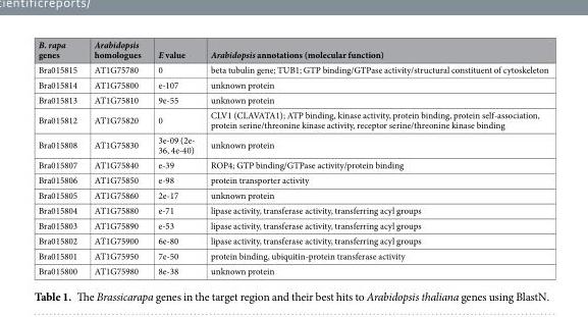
<table><thead><tr><td>B. rapa genes</td><td>Arabidopsis homologues</td><td>E value</td><td>Arabidopsis annotations (molecular function)</td></tr></thead><tbody><tr><td>Bra015815</td><td>AT1G75780</td><td>0</td><td>beta tubulin gene; TUB1; GTP binding/GTPase activity/structural constituent of cytoskeleton</td></tr><tr><td>Bra015814</td><td>AT1G75800</td><td>e-107</td><td>unknown protein</td></tr><tr><td>Bra015813</td><td>AT1G75810</td><td>9e-55</td><td>unknown protein</td></tr><tr><td>Bra015812</td><td>AT1G75820</td><td>0</td><td>CLV1 (CLAVATA1); ATP binding, kinase activity, protein binding, protein self-association, protein serine/threonine kinase activity, receptor serine/threonine kinase binding</td></tr><tr><td>Bra015808</td><td>AT1G75830</td><td>3e-09 (2e- 36, 4e-40)</td><td>unknown protein</td></tr><tr><td>Bra015807</td><td>AT1G75840</td><td>e-39</td><td>ROP4; GTP binding/GTPase activity/protein binding</td></tr><tr><td>Bra015806</td><td>AT1G75850</td><td>e-98</td><td>protein transporter activity</td></tr><tr><td>Bra015805</td><td>AT1G75860</td><td>2e-17</td><td>unknown protein</td></tr><tr><td>Bra015804</td><td>AT1G75880</td><td>e-71</td><td>lipase activity, transferase activity, transferring acyl groups</td></tr><tr><td>Bra015803</td><td>AT1G75890</td><td>e-53</td><td>lipase activity, transferase activity, transferring acyl groups</td></tr><tr><td>Bra015802</td><td>AT1G75900</td><td>6e-80</td><td>lipase activity, transferase activity, transferring acyl groups</td></tr><tr><td>Bra015801</td><td>AT1G75950</td><td>7e-50</td><td>protein binding, ubiquitin-protein transferase activity</td></tr><tr><td>Bra015800</td><td>AT1G75980</td><td>8e-38</td><td>unknown protein</td></tr></tbody></table>